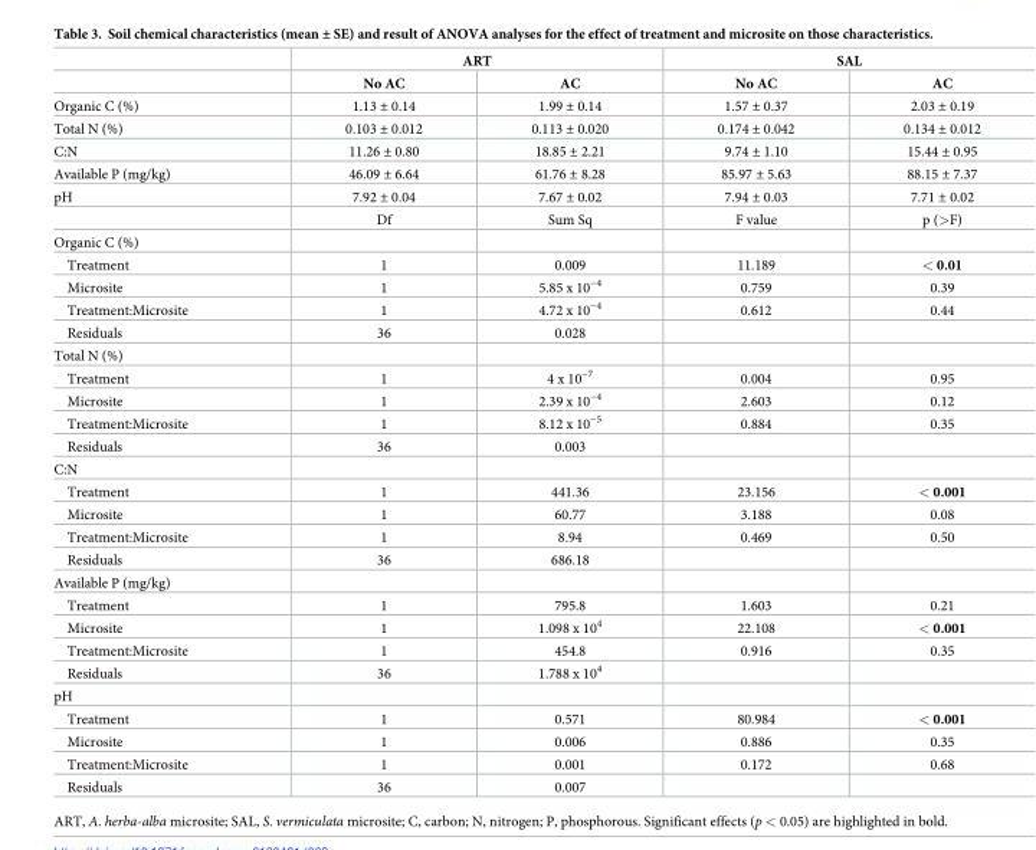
<table><thead><tr><td rowspan="2"></td><td colspan="2">ART</td><td colspan="2">SAL</td></tr><tr><td>No AC</td><td>AC</td><td>No AC</td><td>AC</td></tr></thead><tbody><tr><td>Organic C (%)</td><td>1.13 ± 0.14</td><td>1.99 ± 0.14</td><td>1.57 ± 0.37</td><td>2.03 ± 0.19</td></tr><tr><td>Total N (%)</td><td>0.103 ± 0.012</td><td>0.113 ± 0.020</td><td>0.174 ± 0.042</td><td>0.134 ± 0.012</td></tr><tr><td>C:N</td><td>11.26 ± 0.80</td><td>18.85 ± 2.21</td><td>9.74 ± 1.10</td><td>15.44 ± 0.95</td></tr><tr><td>Available P (mg/kg)</td><td>46.09 ± 6.64</td><td>61.76 ± 8.28</td><td>85.97 ± 5.63</td><td>88.15 ± 7.37</td></tr><tr><td rowspan="2">pH</td><td>7.92 ± 0.04</td><td>7.67 ± 0.02</td><td>7.94 ± 0.03</td><td>7.71 ± 0.02</td></tr><tr><td>Df</td><td>Sum Sq</td><td>F value</td><td>p (&gt;F)</td></tr><tr><td colspan="5">Organic C (%)</td></tr><tr><td>Treatment</td><td>1</td><td>0.009</td><td>11.189</td><td>&lt; 0.01</td></tr><tr><td>Microsite</td><td>1</td><td>5.85 x 10<sup>−4</sup></td><td>0.759</td><td>0.39</td></tr><tr><td>Treatment:Microsite</td><td>1</td><td>4.72 x 10<sup>−4</sup></td><td>0.612</td><td>0.44</td></tr><tr><td>Residuals</td><td>36</td><td>0.028</td><td></td><td></td></tr><tr><td colspan="5">Total N (%)</td></tr><tr><td>Treatment</td><td>1</td><td>4 x 10<sup>−7</sup></td><td>0.004</td><td>0.95</td></tr><tr><td>Microsite</td><td>1</td><td>2.39 x 10<sup>−4</sup></td><td>2.603</td><td>0.12</td></tr><tr><td>Treatment:Microsite</td><td>1</td><td>8.12 x 10<sup>−5</sup></td><td>0.884</td><td>0.35</td></tr><tr><td>Residuals</td><td>36</td><td>0.003</td><td></td><td></td></tr><tr><td colspan="5">C:N</td></tr><tr><td>Treatment</td><td>1</td><td>441.36</td><td>23.156</td><td>&lt; 0.001</td></tr><tr><td>Microsite</td><td>1</td><td>60.77</td><td>3.188</td><td>0.08</td></tr><tr><td>Treatment:Microsite</td><td>1</td><td>8.94</td><td>0.469</td><td>0.50</td></tr><tr><td>Residuals</td><td>36</td><td>686.18</td><td></td><td></td></tr><tr><td colspan="5">Available P (mg/kg)</td></tr><tr><td>Treatment</td><td>1</td><td>795.8</td><td>1.603</td><td>0.21</td></tr><tr><td>Microsite</td><td>1</td><td>1.098 x 10<sup>4</sup></td><td>22.108</td><td>&lt; 0.001</td></tr><tr><td>Treatment:Microsite</td><td>1</td><td>454.8</td><td>0.916</td><td>0.35</td></tr><tr><td>Residuals</td><td>36</td><td>1.788 x 10<sup>4</sup></td><td></td><td></td></tr><tr><td colspan="5">pH</td></tr><tr><td>Treatment</td><td>1</td><td>0.571</td><td>80.984</td><td>&lt; 0.001</td></tr><tr><td>Microsite</td><td>1</td><td>0.006</td><td>0.886</td><td>0.35</td></tr><tr><td>Treatment:Microsite</td><td>1</td><td>0.001</td><td>0.172</td><td>0.68</td></tr><tr><td>Residuals</td><td>36</td><td>0.007</td><td></td><td></td></tr></tbody></table>